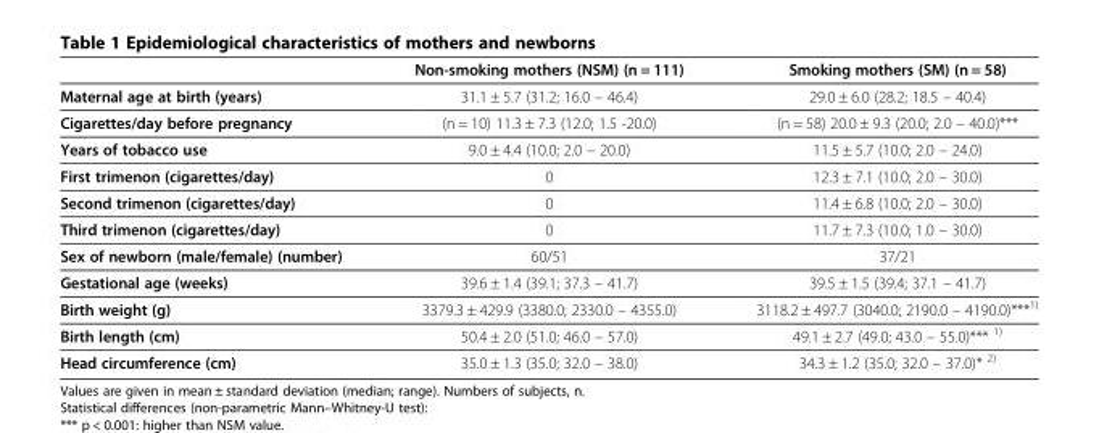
<table><thead><tr><td></td><td>Non-smoking mothers (NSM) (n = 111)</td><td>Smoking mothers (SM) (n = 58)</td></tr></thead><tbody><tr><td>Maternal age at birth (years)</td><td>31.1 ± 5.7 (31.2; 16.0 – 46.4)</td><td>29.0 ± 6.0 (28.2; 18.5 – 40.4)</td></tr><tr><td>Cigarettes/day before pregnancy</td><td>(n = 10) 11.3 ± 7.3 (12.0; 1.5 -20.0)</td><td>(n = 58) 20.0 ± 9.3 (20.0; 2.0 – 40.0)***</td></tr><tr><td>Years of tobacco use</td><td>9.0 ± 4.4 (10.0; 2.0 – 20.0)</td><td>11.5 ± 5.7 (10.0; 2.0 – 24.0)</td></tr><tr><td>First trimenon (cigarettes/day)</td><td>0</td><td>12.3 ± 7.1 (10.0; 2.0 – 30.0)</td></tr><tr><td>Second trimenon (cigarettes/day)</td><td>0</td><td>11.4 ± 6.8 (10.0; 2.0 – 30.0)</td></tr><tr><td>Third trimenon (cigarettes/day)</td><td>0</td><td>11.7 ± 7.3 (10.0; 1.0 – 30.0)</td></tr><tr><td>Sex of newborn (male/female) (number)</td><td>60/51</td><td>37/21</td></tr><tr><td>Gestational age (weeks)</td><td>39.6 ± 1.4 (39.1; 37.3 – 41.7)</td><td>39.5 ± 1.5 (39.4; 37.1 – 41.7)</td></tr><tr><td>Birth weight (g)</td><td>3379.3 ± 429.9 (3380.0; 2330.0 – 4355.0)</td><td>3118.2 ± 497.7 (3040.0; 2190.0 – 4190.0)***<sup>1)</sup></td></tr><tr><td>Birth length (cm)</td><td>50.4 ± 2.0 (51.0; 46.0 – 57.0)</td><td>49.1 ± 2.7 (49.0; 43.0 – 55.0)*** <sup>1)</sup></td></tr><tr><td>Head circumference (cm)</td><td>35.0 ± 1.3 (35.0; 32.0 – 38.0)</td><td>34.3 ± 1.2 (35.0; 32.0 – 37.0)* <sup>2)</sup></td></tr></tbody></table>